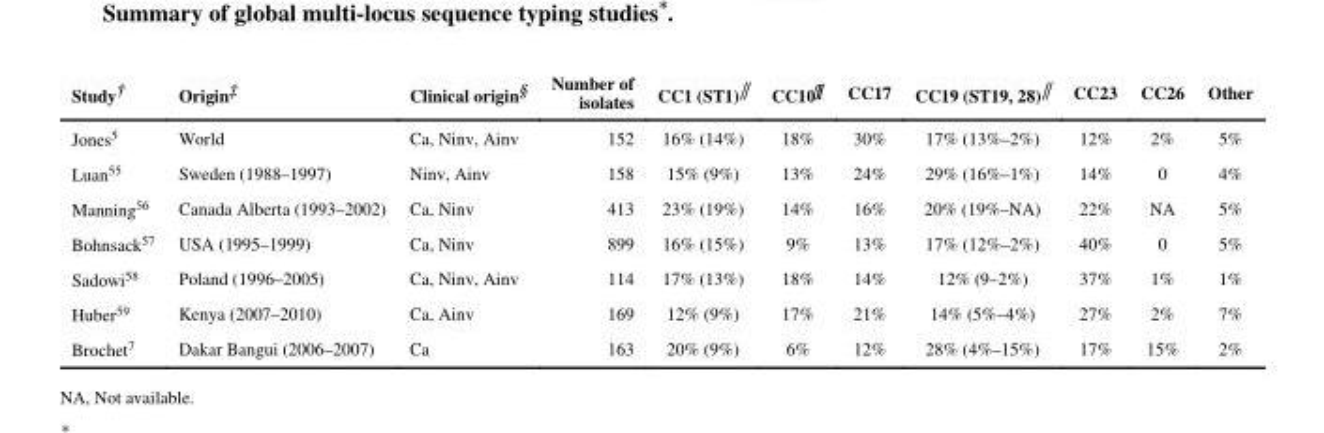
<table><thead><tr><td>Study†</td><td>Origin‡</td><td>Clinical origin§</td><td>Number of isolates</td><td>CC1 (ST1)∥</td><td>CC10¶</td><td>CC17</td><td>CC19 (ST19, 28)∥</td><td>CC23</td><td>CC26</td><td>Other</td></tr></thead><tbody><tr><td>Jones<sup>5</sup></td><td>World</td><td>Ca, Ninv, Ainv</td><td>152</td><td>16% (14%)</td><td>18%</td><td>30%</td><td>17% (13%–2%)</td><td>12%</td><td>2%</td><td>5%</td></tr><tr><td>Luan<sup>55</sup></td><td>Sweden (1988–1997)</td><td>Ninv, Ainv</td><td>158</td><td>15% (9%)</td><td>13%</td><td>24%</td><td>29% (16%–1%)</td><td>14%</td><td>0</td><td>4%</td></tr><tr><td>Manning<sup>56</sup></td><td>Canada Alberta (1993–2002)</td><td>Ca, Ninv</td><td>413</td><td>23% (19%)</td><td>14%</td><td>16%</td><td>20% (19%–NA)</td><td>22%</td><td>NA</td><td>5%</td></tr><tr><td>Bohnsack<sup>57</sup></td><td>USA (1995–1999)</td><td>Ca, Ninv</td><td>899</td><td>16% (15%)</td><td>9%</td><td>13%</td><td>17% (12%–2%)</td><td>40%</td><td>0</td><td>5%</td></tr><tr><td>Sadowi<sup>58</sup></td><td>Poland (1996–2005)</td><td>Ca, Ninv, Ainv</td><td>114</td><td>17% (13%)</td><td>18%</td><td>14%</td><td>12% (9–2%)</td><td>37%</td><td>1%</td><td>1%</td></tr><tr><td>Huber<sup>59</sup></td><td>Kenya (2007–2010)</td><td>Ca, Ainv</td><td>169</td><td>12% (9%)</td><td>17%</td><td>21%</td><td>14% (5%–4%)</td><td>27%</td><td>2%</td><td>7%</td></tr><tr><td>Brochet<sup>7</sup></td><td>Dakar Bangui (2006–2007)</td><td>Ca</td><td>163</td><td>20% (9%)</td><td>6%</td><td>12%</td><td>28% (4%–15%)</td><td>17%</td><td>15%</td><td>2%</td></tr></tbody></table>